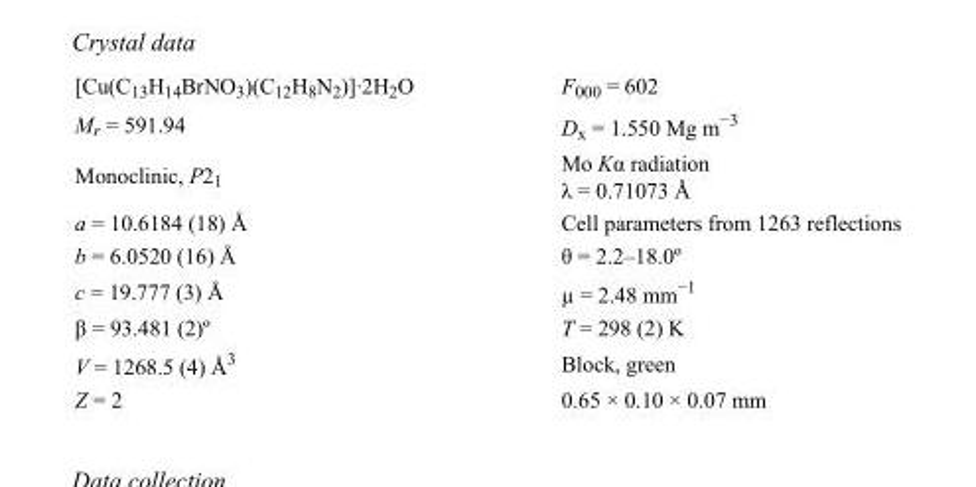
<table><tbody><tr><td>[Cu(C<sub>13</sub>H<sub>14</sub>BrNO<sub>3</sub>)(C<sub>12</sub>H<sub>8</sub>N<sub>2</sub>)]·2H<sub>2</sub>O</td><td>F<sub>000</sub> = 602</td></tr><tr><td>M<sub>r</sub> = 591.94</td><td>D<sub>x</sub> = 1.550 Mg m<sup>−3</sup></td></tr><tr><td>Monoclinic, P2<sub>1</sub></td><td>Mo Kα radiation λ = 0.71073 Å</td></tr><tr><td>a = 10.6184 (18) Å</td><td>Cell parameters from 1263 reflections</td></tr><tr><td>b = 6.0520 (16) Å</td><td>θ = 2.2–18.0º</td></tr><tr><td>c = 19.777 (3) Å</td><td>µ = 2.48 mm<sup>−1</sup></td></tr><tr><td>β = 93.481 (2)º</td><td>T = 298 (2) K</td></tr><tr><td>V = 1268.5 (4) Å<sup>3</sup></td><td>Block, green</td></tr><tr><td>Z = 2</td><td>0.65 × 0.10 × 0.07 mm</td></tr></tbody></table>